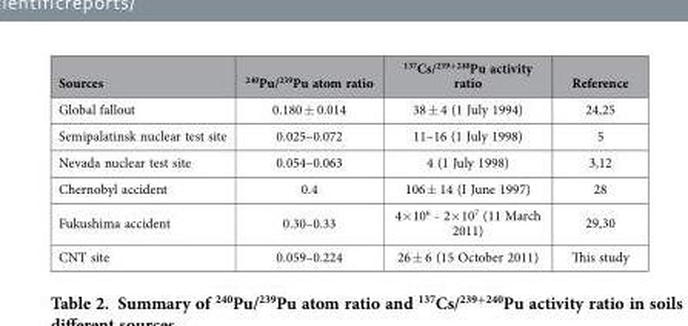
<table><thead><tr><td>Sources</td><td><sup>240</sup>Pu/<sup>239</sup>Pu atom ratio</td><td><sup>137</sup>Cs/<sup>239+240</sup>Pu activity ratio</td><td>Reference</td></tr></thead><tbody><tr><td>Global fallout</td><td>0.180 ± 0.014</td><td>38 ± 4 (1 July 1994)</td><td>24,25</td></tr><tr><td>Semipalatinsk nuclear test site</td><td>0.025–0.072</td><td>11–16 (1 July 1998)</td><td>5</td></tr><tr><td>Nevada nuclear test site</td><td>0.054–0.063</td><td>4 (1 July 1998)</td><td>3,12</td></tr><tr><td>Chernobyl accident</td><td>0.4</td><td>106 ± 14 (I June 1997)</td><td>28</td></tr><tr><td>Fukushima accident</td><td>0.30–0.33</td><td>4× 10<sup>6</sup> - 2× 10<sup>7</sup> (11 March 2011)</td><td>29,30</td></tr><tr><td>CNT site</td><td>0.059–0.224</td><td>26 ± 6 (15 October 2011)</td><td>This study</td></tr></tbody></table>